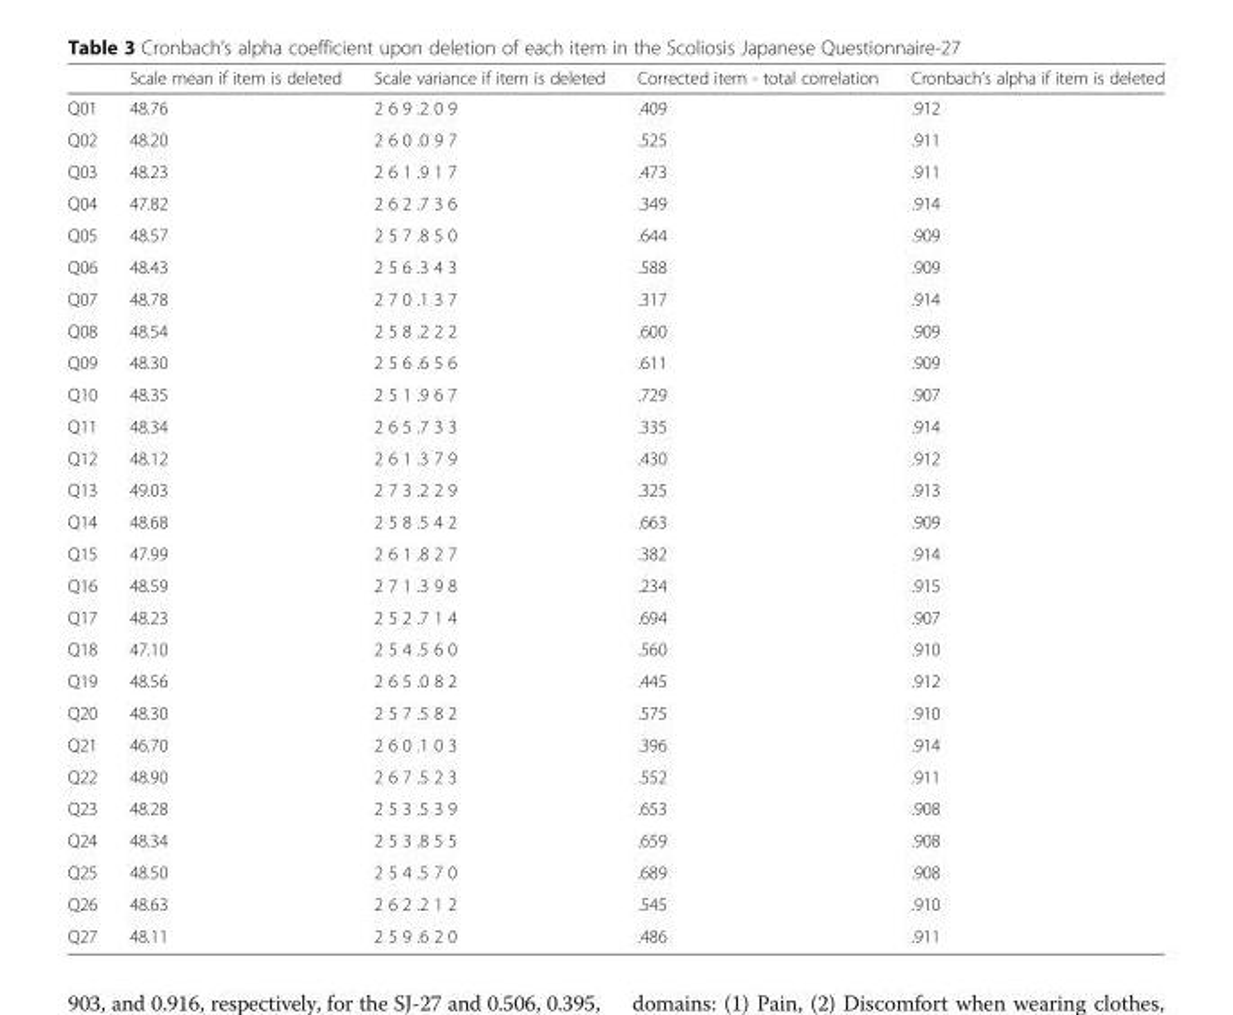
<table><thead><tr><td></td><td>Scale mean if item is deleted</td><td>Scale variance if item is deleted</td><td>Corrected item - total correlation</td><td>Cronbach’s alpha if item is deleted</td></tr></thead><tbody><tr><td>Q01</td><td>48.76</td><td>2 6 9 .2 0 9</td><td>.409</td><td>.912</td></tr><tr><td>Q02</td><td>48.20</td><td>2 6 0 .0 9 7</td><td>.525</td><td>.911</td></tr><tr><td>Q03</td><td>48.23</td><td>2 6 1 .9 1 7</td><td>.473</td><td>.911</td></tr><tr><td>Q04</td><td>47.82</td><td>2 6 2 .7 3 6</td><td>.349</td><td>.914</td></tr><tr><td>Q05</td><td>48.57</td><td>2 5 7 .8 5 0</td><td>.644</td><td>.909</td></tr><tr><td>Q06</td><td>48.43</td><td>2 5 6 .3 4 3</td><td>.588</td><td>.909</td></tr><tr><td>Q07</td><td>48.78</td><td>2 7 0 .1 3 7</td><td>.317</td><td>.914</td></tr><tr><td>Q08</td><td>48.54</td><td>2 5 8 .2 2 2</td><td>.600</td><td>.909</td></tr><tr><td>Q09</td><td>48.30</td><td>2 5 6 .6 5 6</td><td>.611</td><td>.909</td></tr><tr><td>Q10</td><td>48.35</td><td>2 5 1 .9 6 7</td><td>.729</td><td>.907</td></tr><tr><td>Q11</td><td>48.34</td><td>2 6 5 .7 3 3</td><td>.335</td><td>.914</td></tr><tr><td>Q12</td><td>48.12</td><td>2 6 1 .3 7 9</td><td>.430</td><td>.912</td></tr><tr><td>Q13</td><td>49.03</td><td>2 7 3 .2 2 9</td><td>.325</td><td>.913</td></tr><tr><td>Q14</td><td>48.68</td><td>2 5 8 .5 4 2</td><td>.663</td><td>.909</td></tr><tr><td>Q15</td><td>47.99</td><td>2 6 1 .8 2 7</td><td>.382</td><td>.914</td></tr><tr><td>Q16</td><td>48.59</td><td>2 7 1 .3 9 8</td><td>.234</td><td>.915</td></tr><tr><td>Q17</td><td>48.23</td><td>2 5 2 .7 1 4</td><td>.694</td><td>.907</td></tr><tr><td>Q18</td><td>47.10</td><td>2 5 4 .5 6 0</td><td>.560</td><td>.910</td></tr><tr><td>Q19</td><td>48.56</td><td>2 6 5 .0 8 2</td><td>.445</td><td>.912</td></tr><tr><td>Q20</td><td>48.30</td><td>2 5 7 .5 8 2</td><td>.575</td><td>.910</td></tr><tr><td>Q21</td><td>46.70</td><td>2 6 0 .1 0 3</td><td>.396</td><td>.914</td></tr><tr><td>Q22</td><td>48.90</td><td>2 6 7 .5 2 3</td><td>.552</td><td>.911</td></tr><tr><td>Q23</td><td>48.28</td><td>2 5 3 .5 3 9</td><td>.653</td><td>.908</td></tr><tr><td>Q24</td><td>48.34</td><td>2 5 3 .8 5 5</td><td>.659</td><td>.908</td></tr><tr><td>Q25</td><td>48.50</td><td>2 5 4 .5 7 0</td><td>.689</td><td>.908</td></tr><tr><td>Q26</td><td>48.63</td><td>2 6 2 .2 1 2</td><td>.545</td><td>.910</td></tr><tr><td>Q27</td><td>48.11</td><td>2 5 9 .6 2 0</td><td>.486</td><td>.911</td></tr></tbody></table>